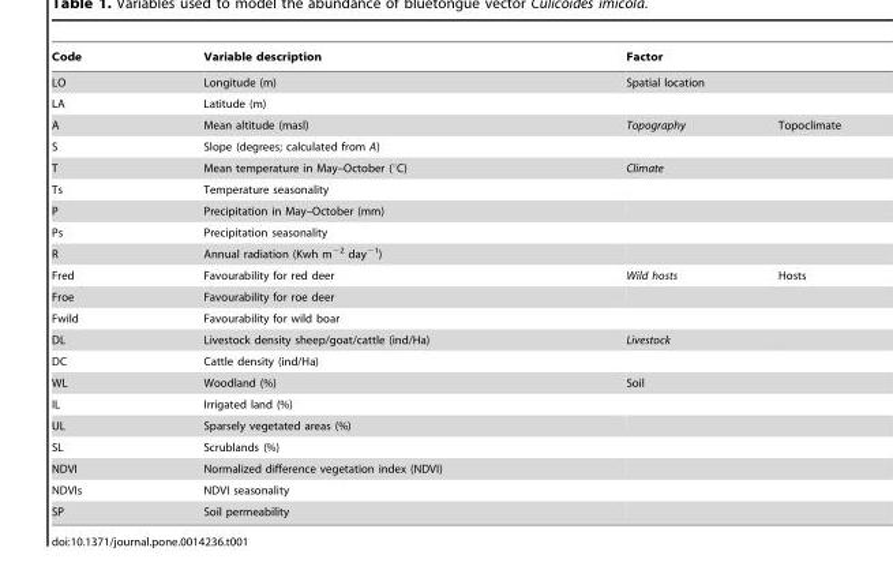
<table><thead><tr><td rowspan="4">Code LO LA A</td><td rowspan="4">Variable description Longitude (m) Latitude (m) Mean altitude (masl)</td><td rowspan="3" colspan="2">Factor Spatial location</td></tr><tr></tr><tr></tr><tr><td>Topography</td><td>Topoclimate</td></tr></thead><tbody><tr><td>S</td><td>Slope (degrees; calculated from A)</td><td></td><td></td></tr><tr><td>T</td><td>Mean temperature in May–October (°C)</td><td>Climate</td><td></td></tr><tr><td>Ts</td><td>Temperature seasonality</td><td></td><td></td></tr><tr><td>P</td><td>Precipitation in May–October (mm)</td><td></td><td></td></tr><tr><td>Ps</td><td>Precipitation seasonality</td><td></td><td></td></tr><tr><td>R</td><td>Annual radiation (Kwh m<sup>−2</sup> day<sup>−1</sup>)</td><td></td><td></td></tr><tr><td>Fred</td><td>Favourability for red deer</td><td>Wild hosts</td><td>Hosts</td></tr><tr><td>Froe</td><td>Favourability for roe deer</td><td></td><td></td></tr><tr><td>Fwild</td><td>Favourability for wild boar</td><td></td><td></td></tr><tr><td>DL</td><td>Livestock density sheep/goat/cattle (ind/Ha)</td><td>Livestock</td><td></td></tr><tr><td>DC</td><td>Cattle density (ind/Ha)</td><td></td><td></td></tr><tr><td>WL</td><td>Woodland (%)</td><td colspan="2">Soil</td></tr><tr><td>IL</td><td>Irrigated land (%)</td><td colspan="2"></td></tr><tr><td>UL</td><td>Sparsely vegetated areas (%)</td><td colspan="2"></td></tr><tr><td>SL</td><td>Scrublands (%)</td><td colspan="2"></td></tr><tr><td>NDVI</td><td>Normalized difference vegetation index (NDVI)</td><td colspan="2"></td></tr><tr><td>NDVIs</td><td>NDVI seasonality</td><td colspan="2"></td></tr><tr><td>SP</td><td>Soil permeability</td><td colspan="2"></td></tr></tbody></table>